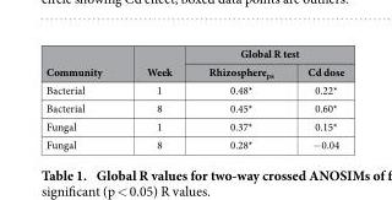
<table><thead><tr><td rowspan="2">Community</td><td rowspan="2">Week</td><td colspan="2">Global R test</td></tr><tr><td>Rhizosphere<sub>pa</sub></td><td>Cd dose</td></tr></thead><tbody><tr><td>Bacterial</td><td>1</td><td>0.48*</td><td>0.22*</td></tr><tr><td>Bacterial</td><td>8</td><td>0.45*</td><td>0.60*</td></tr><tr><td>Fungal</td><td>1</td><td>0.37*</td><td>0.15*</td></tr><tr><td>Fungal</td><td>8</td><td>0.28*</td><td>− 0.04</td></tr></tbody></table>